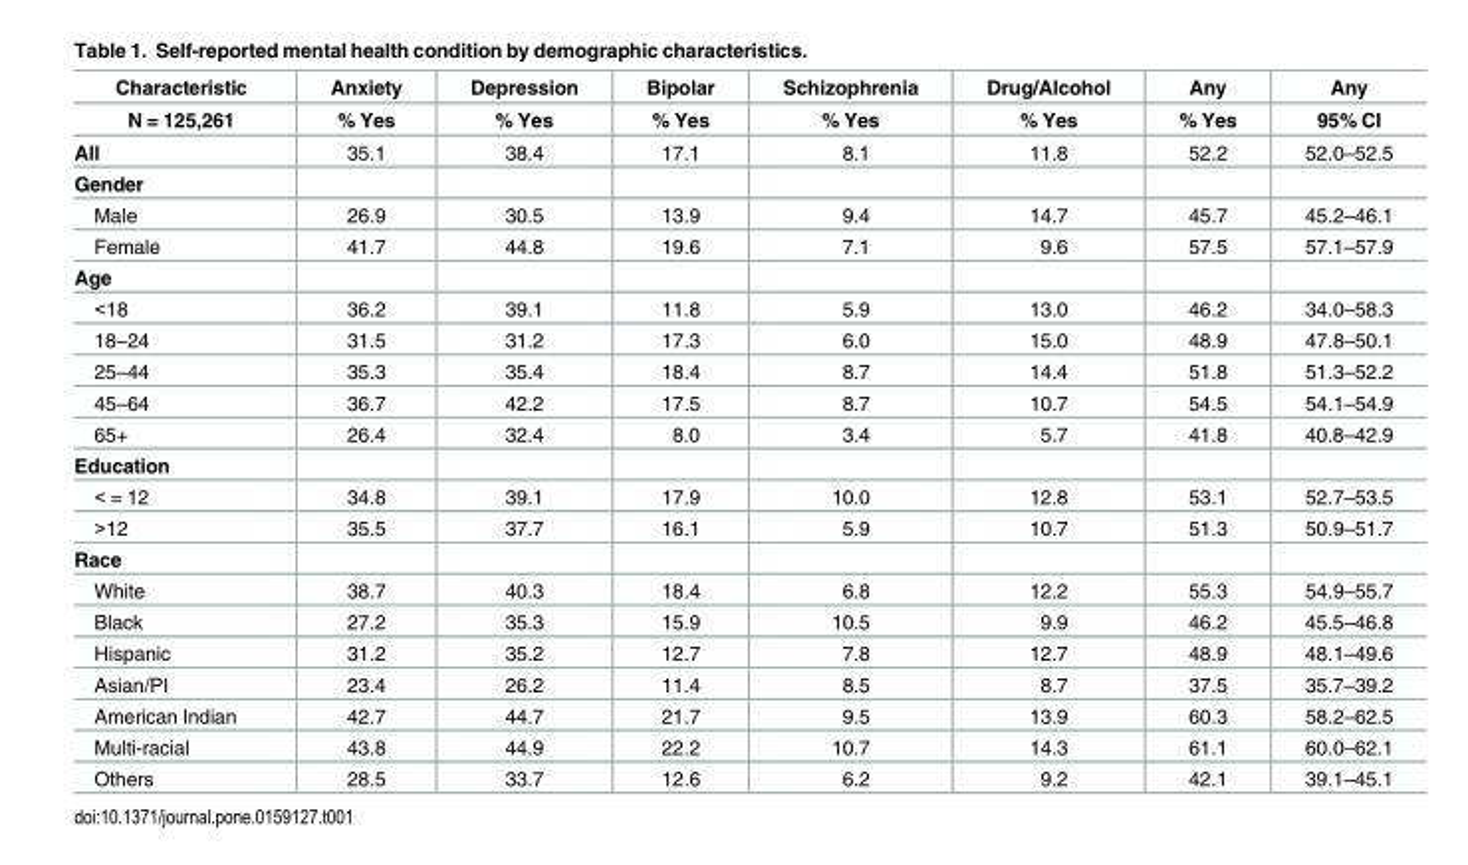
<table><thead><tr><td rowspan="2">Characteristic N = 125,261</td><td rowspan="2">Anxiety % Yes</td><td rowspan="2">Depression % Yes</td><td rowspan="2">Bipolar % Yes</td><td rowspan="2">Schizophrenia % Yes</td><td rowspan="2">Drug/Alcohol % Yes</td><td rowspan="2">Any % Yes</td><td rowspan="2">Any 95% CI</td></tr><tr></tr></thead><tbody><tr><td>All</td><td>35.1</td><td>38.4</td><td>17.1</td><td>8.1</td><td>11.8</td><td>52.2</td><td>52.0–52.5</td></tr><tr><td colspan="8">Gender</td></tr><tr><td>Male</td><td>26.9</td><td>30.5</td><td>13.9</td><td>9.4</td><td>14.7</td><td>45.7</td><td>45.2–46.1</td></tr><tr><td>Female</td><td>41.7</td><td>44.8</td><td>19.6</td><td>7.1</td><td>9.6</td><td>57.5</td><td>57.1–57.9</td></tr><tr><td colspan="8">Age</td></tr><tr><td>&lt;18</td><td>36.2</td><td>39.1</td><td>11.8</td><td>5.9</td><td>13.0</td><td>46.2</td><td>34.0–58.3</td></tr><tr><td>18–24</td><td>31.5</td><td>31.2</td><td>17.3</td><td>6.0</td><td>15.0</td><td>48.9</td><td>47.8–50.1</td></tr><tr><td>25–44</td><td>35.3</td><td>35.4</td><td>18.4</td><td>8.7</td><td>14.4</td><td>51.8</td><td>51.3–52.2</td></tr><tr><td>45–64</td><td>36.7</td><td>42.2</td><td>17.5</td><td>8.7</td><td>10.7</td><td>54.5</td><td>54.1–54.9</td></tr><tr><td>65+</td><td>26.4</td><td>32.4</td><td>8.0</td><td>3.4</td><td>5.7</td><td>41.8</td><td>40.8–42.9</td></tr><tr><td colspan="8">Education</td></tr><tr><td>&lt; = 12</td><td>34.8</td><td>39.1</td><td>17.9</td><td>10.0</td><td>12.8</td><td>53.1</td><td>52.7–53.5</td></tr><tr><td>&gt;12</td><td>35.5</td><td>37.7</td><td>16.1</td><td>5.9</td><td>10.7</td><td>51.3</td><td>50.9–51.7</td></tr><tr><td colspan="8">Race</td></tr><tr><td>White</td><td>38.7</td><td>40.3</td><td>18.4</td><td>6.8</td><td>12.2</td><td>55.3</td><td>54.9–55.7</td></tr><tr><td>Black</td><td>27.2</td><td>35.3</td><td>15.9</td><td>10.5</td><td>9.9</td><td>46.2</td><td>45.5–46.8</td></tr><tr><td>Hispanic</td><td>31.2</td><td>35.2</td><td>12.7</td><td>7.8</td><td>12.7</td><td>48.9</td><td>48.1–49.6</td></tr><tr><td>Asian/PI</td><td>23.4</td><td>26.2</td><td>11.4</td><td>8.5</td><td>8.7</td><td>37.5</td><td>35.7–39.2</td></tr><tr><td>American Indian</td><td>42.7</td><td>44.7</td><td>21.7</td><td>9.5</td><td>13.9</td><td>60.3</td><td>58.2–62.5</td></tr><tr><td>Multi-racial</td><td>43.8</td><td>44.9</td><td>22.2</td><td>10.7</td><td>14.3</td><td>61.1</td><td>60.0–62.1</td></tr><tr><td>Others</td><td>28.5</td><td>33.7</td><td>12.6</td><td>6.2</td><td>9.2</td><td>42.1</td><td>39.1–45.1</td></tr></tbody></table>